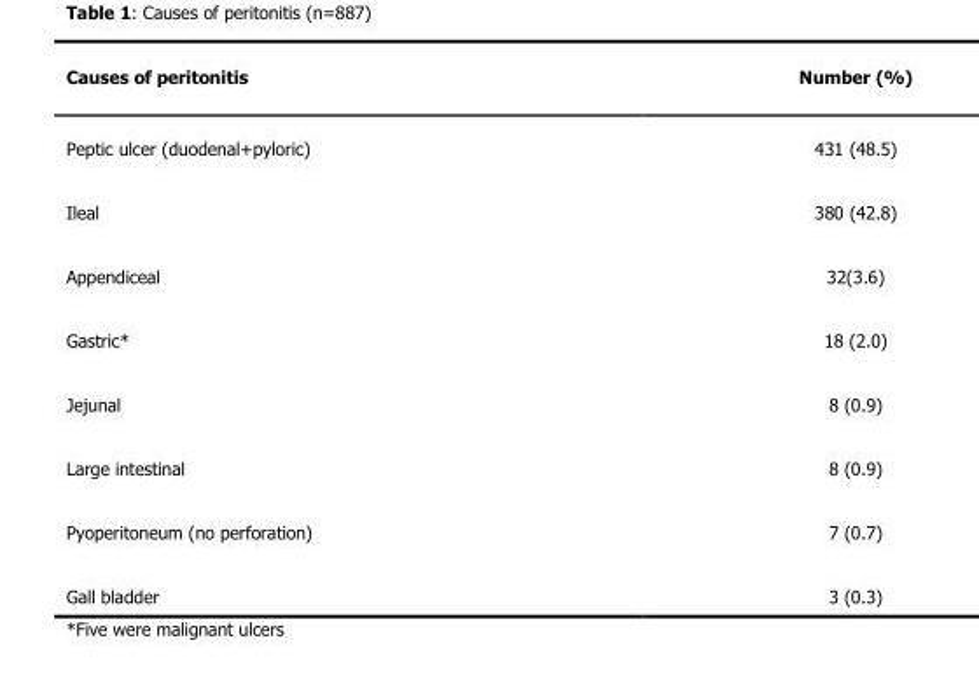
<table><thead><tr><td>Causes of peritonitis</td><td>Number (%)</td></tr></thead><tbody><tr><td>Peptic ulcer (duodenal+pyloric)</td><td>431 (48.5)</td></tr><tr><td>Ileal</td><td>380 (42.8)</td></tr><tr><td>Appendiceal</td><td>32(3.6)</td></tr><tr><td>Gastric*</td><td>18 (2.0)</td></tr><tr><td>Jejunal</td><td>8 (0.9)</td></tr><tr><td>Large intestinal</td><td>8 (0.9)</td></tr><tr><td>Pyoperitoneum (no perforation)</td><td>7 (0.7)</td></tr><tr><td>Gall bladder</td><td>3 (0.3)</td></tr></tbody></table>